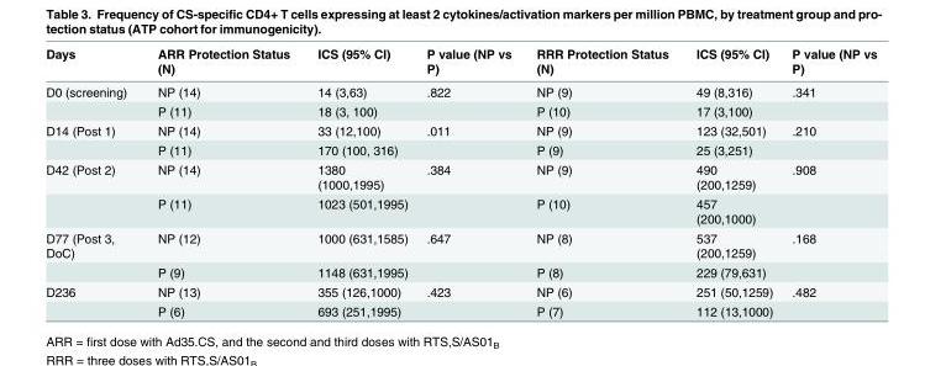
<table><thead><tr><td>Days</td><td>ARR Protection Status (N)</td><td>ICS (95% CI)</td><td>P value (NP vs P)</td><td>RRR Protection Status (N)</td><td>ICS (95% CI)</td><td>P value (NP vs P)</td></tr></thead><tbody><tr><td rowspan="2">D0 (screening)</td><td>NP (14)</td><td>14 (3,63)</td><td>.822</td><td>NP (9)</td><td>49 (8,316)</td><td>.341</td></tr><tr><td>P (11)</td><td>18 (3, 100)</td><td></td><td>P (10)</td><td>17 (3,100)</td><td></td></tr><tr><td rowspan="2">D14 (Post 1)</td><td>NP (14)</td><td>33 (12,100)</td><td>.011</td><td>NP (9)</td><td>123 (32,501)</td><td>.210</td></tr><tr><td>P (11)</td><td>170 (100, 316)</td><td></td><td>P (9)</td><td>25 (3,251)</td><td></td></tr><tr><td rowspan="2">D42 (Post 2)</td><td>NP (14)</td><td>1380 (1000,1995)</td><td>.384</td><td>NP (9)</td><td>490 (200,1259)</td><td>.908</td></tr><tr><td>P (11)</td><td>1023 (501,1995)</td><td></td><td>P (10)</td><td>457 (200,1000)</td><td></td></tr><tr><td rowspan="2">D77 (Post 3, DoC)</td><td>NP (12)</td><td>1000 (631,1585)</td><td>.647</td><td>NP (8)</td><td>537 (200,1259)</td><td>.168</td></tr><tr><td>P (9)</td><td>1148 (631,1995)</td><td></td><td>P (8)</td><td>229 (79,631)</td><td></td></tr><tr><td rowspan="2">D236</td><td>NP (13)</td><td>355 (126,1000)</td><td>.423</td><td>NP (6)</td><td>251 (50,1259)</td><td>.482</td></tr><tr><td>P (6)</td><td>693 (251,1995)</td><td></td><td>P (7)</td><td>112 (13,1000)</td><td></td></tr></tbody></table>